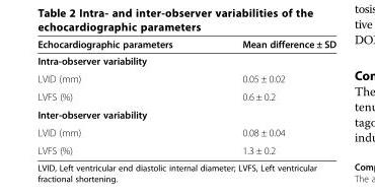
<table><thead><tr><td>Echocardiographic parameters</td><td>Mean difference ± SD</td></tr></thead><tbody><tr><td colspan="2">Intra-observer variability</td></tr><tr><td>LVID (mm)</td><td>0.05 ± 0.02</td></tr><tr><td>LVFS (%)</td><td>0.6 ± 0.2</td></tr><tr><td colspan="2">Inter-observer variability</td></tr><tr><td>LVID (mm)</td><td>0.08 ± 0.04</td></tr><tr><td>LVFS (%)</td><td>1.3 ± 0.2</td></tr></tbody></table>